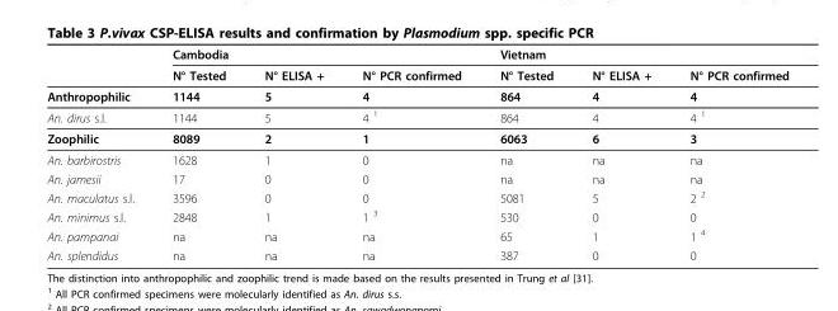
<table><thead><tr><td rowspan="2"></td><td colspan="3">Cambodia</td><td colspan="3">Vietnam</td></tr><tr><td>N° Tested</td><td>N° ELISA +</td><td>N° PCR confirmed</td><td>N° Tested</td><td>N° ELISA +</td><td>N° PCR confirmed</td></tr></thead><tbody><tr><td>Anthropophilic</td><td>1144</td><td>5</td><td>4</td><td>864</td><td>4</td><td>4</td></tr><tr><td>An. dirus s.l.</td><td>1144</td><td>5</td><td>4 <sup>1</sup></td><td>864</td><td>4</td><td>4 <sup>1</sup></td></tr><tr><td>Zoophilic</td><td>8089</td><td>2</td><td>1</td><td>6063</td><td>6</td><td>3</td></tr><tr><td>An. barbirostris</td><td>1628</td><td>1</td><td>0</td><td>na</td><td>na</td><td>na</td></tr><tr><td>An. jamesii</td><td>17</td><td>0</td><td>0</td><td>na</td><td>na</td><td>na</td></tr><tr><td>An. maculatus s.l.</td><td>3596</td><td>0</td><td>0</td><td>5081</td><td>5</td><td>2 <sup>2</sup></td></tr><tr><td>An. minimus s.l.</td><td>2848</td><td>1</td><td>1 <sup>3</sup></td><td>530</td><td>0</td><td>0</td></tr><tr><td>An. pampanai</td><td>na</td><td>na</td><td>na</td><td>65</td><td>1</td><td>1 <sup>4</sup></td></tr><tr><td>An. splendidus</td><td>na</td><td>na</td><td>na</td><td>387</td><td>0</td><td>0</td></tr></tbody></table>